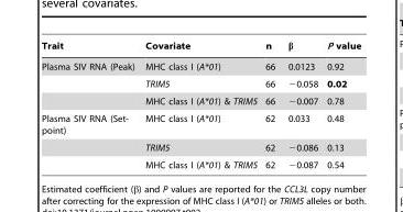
<table><thead><tr><td>Trait</td><td>Covariate</td><td>n</td><td>β</td><td>P value</td></tr></thead><tbody><tr><td rowspan="3">Plasma SIV RNA (Peak)</td><td>MHC class I (A*01)</td><td>66</td><td>0.0123</td><td>0.92</td></tr><tr><td>TRIM5</td><td>66</td><td>−0.058</td><td>0.02</td></tr><tr><td>MHC class I (A*01) &amp; TRIM5</td><td>66</td><td>−0.007</td><td>0.78</td></tr><tr><td rowspan="3">Plasma SIV RNA (Set- point)</td><td>MHC class I (A*01)</td><td>62</td><td>0.033</td><td>0.48</td></tr><tr><td>TRIM5</td><td>62</td><td>−0.086</td><td>0.13</td></tr><tr><td>MHC class I (A*01) &amp; TRIM5</td><td>62</td><td>−0.087</td><td>0.54</td></tr></tbody></table>